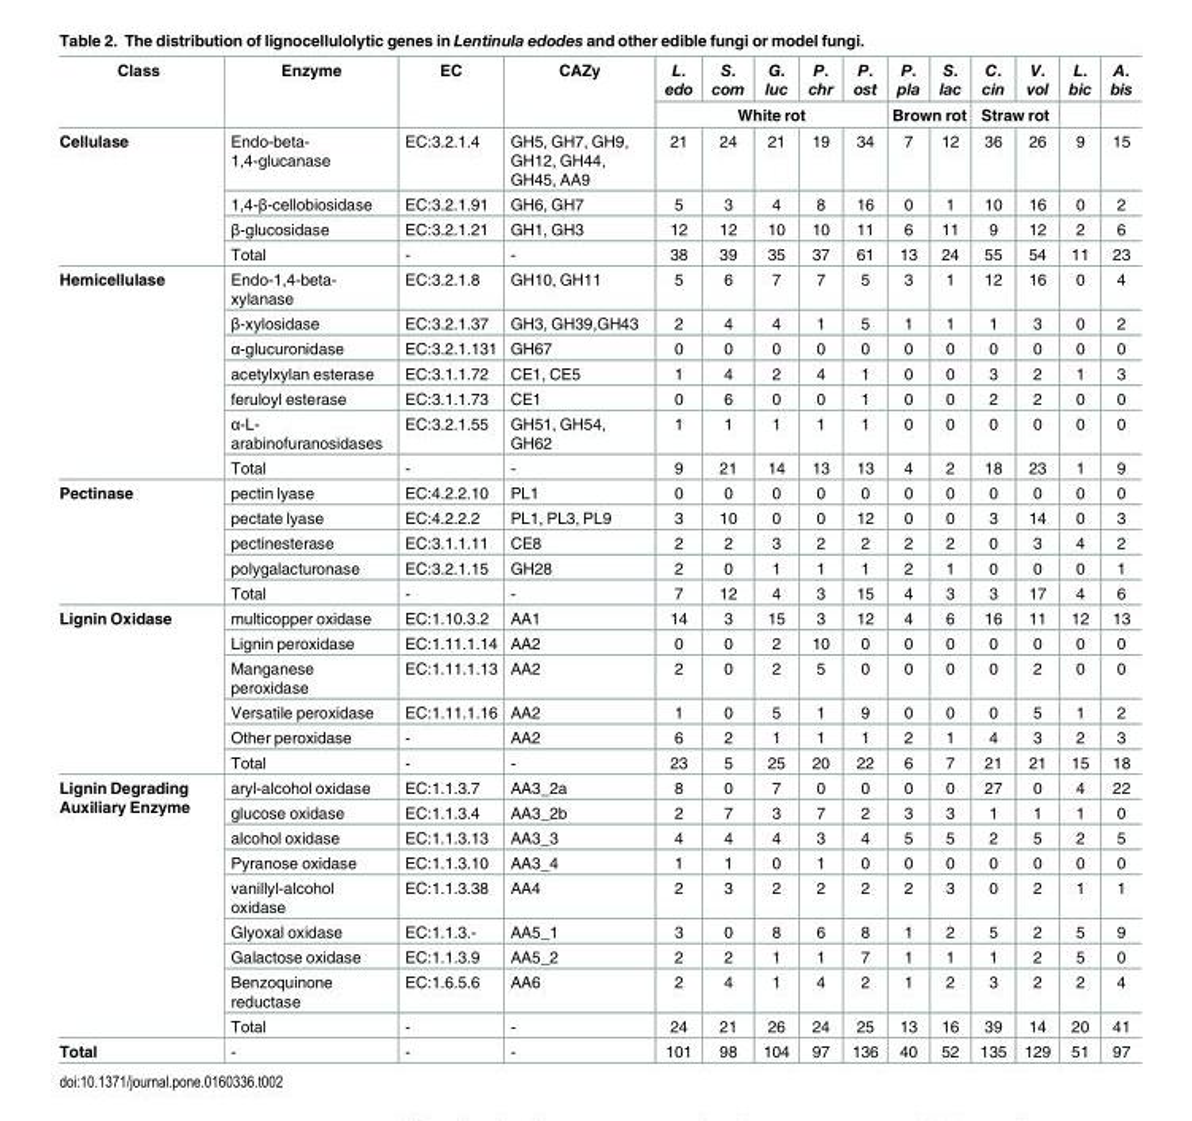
<table><thead><tr><td rowspan="2">Class</td><td rowspan="2">Enzyme</td><td rowspan="2">EC</td><td rowspan="2">CAZy</td><td>L. edo</td><td>S. com</td><td>G. luc</td><td>P. chr</td><td>P. ost</td><td>P. pla</td><td>S. lac</td><td>C. cin</td><td>V. vol</td><td rowspan="2">L. bic</td><td rowspan="2">A. bis</td></tr><tr><td colspan="5">White rot</td><td colspan="2">Brown rot</td><td colspan="2">Straw rot</td></tr></thead><tbody><tr><td rowspan="4">Cellulase</td><td>Endo-beta- 1,4-glucanase</td><td>EC:3.2.1.4</td><td>GH5, GH7, GH9, GH12, GH44, GH45, AA9</td><td>21</td><td>24</td><td>21</td><td>19</td><td>34</td><td>7</td><td>12</td><td>36</td><td>26</td><td>9</td><td>15</td></tr><tr><td>1,4-β-cellobiosidase</td><td>EC:3.2.1.91</td><td>GH6, GH7</td><td>5</td><td>3</td><td>4</td><td>8</td><td>16</td><td>0</td><td>1</td><td>10</td><td>16</td><td>0</td><td>2</td></tr><tr><td>β-glucosidase</td><td>EC:3.2.1.21</td><td>GH1, GH3</td><td>12</td><td>12</td><td>10</td><td>10</td><td>11</td><td>6</td><td>11</td><td>9</td><td>12</td><td>2</td><td>6</td></tr><tr><td>Total</td><td>-</td><td>-</td><td>38</td><td>39</td><td>35</td><td>37</td><td>61</td><td>13</td><td>24</td><td>55</td><td>54</td><td>11</td><td>23</td></tr><tr><td rowspan="7">Hemicellulase</td><td>Endo-1,4-beta- xylanase</td><td>EC:3.2.1.8</td><td>GH10, GH11</td><td>5</td><td>6</td><td>7</td><td>7</td><td>5</td><td>3</td><td>1</td><td>12</td><td>16</td><td>0</td><td>4</td></tr><tr><td>β-xylosidase</td><td>EC:3.2.1.37</td><td>GH3, GH39,GH43</td><td>2</td><td>4</td><td>4</td><td>1</td><td>5</td><td>1</td><td>1</td><td>1</td><td>3</td><td>0</td><td>2</td></tr><tr><td>α-glucuronidase</td><td>EC:3.2.1.131</td><td>GH67</td><td>0</td><td>0</td><td>0</td><td>0</td><td>0</td><td>0</td><td>0</td><td>0</td><td>0</td><td>0</td><td>0</td></tr><tr><td>acetylxylan esterase</td><td>EC:3.1.1.72</td><td>CE1, CE5</td><td>1</td><td>4</td><td>2</td><td>4</td><td>1</td><td>0</td><td>0</td><td>3</td><td>2</td><td>1</td><td>3</td></tr><tr><td>feruloyl esterase</td><td>EC:3.1.1.73</td><td>CE1</td><td>0</td><td>6</td><td>0</td><td>0</td><td>1</td><td>0</td><td>0</td><td>2</td><td>2</td><td>0</td><td>0</td></tr><tr><td>α-L- arabinofuranosidases</td><td>EC:3.2.1.55</td><td>GH51, GH54, GH62</td><td>1</td><td>1</td><td>1</td><td>1</td><td>1</td><td>0</td><td>0</td><td>0</td><td>0</td><td>0</td><td>0</td></tr><tr><td>Total</td><td>-</td><td>-</td><td>9</td><td>21</td><td>14</td><td>13</td><td>13</td><td>4</td><td>2</td><td>18</td><td>23</td><td>1</td><td>9</td></tr><tr><td rowspan="5">Pectinase</td><td>pectin lyase</td><td>EC:4.2.2.10</td><td>PL1</td><td>0</td><td>0</td><td>0</td><td>0</td><td>0</td><td>0</td><td>0</td><td>0</td><td>0</td><td>0</td><td>0</td></tr><tr><td>pectate lyase</td><td>EC:4.2.2.2</td><td>PL1, PL3, PL9</td><td>3</td><td>10</td><td>0</td><td>0</td><td>12</td><td>0</td><td>0</td><td>3</td><td>14</td><td>0</td><td>3</td></tr><tr><td>pectinesterase</td><td>EC:3.1.1.11</td><td>CE8</td><td>2</td><td>2</td><td>3</td><td>2</td><td>2</td><td>2</td><td>2</td><td>0</td><td>3</td><td>4</td><td>2</td></tr><tr><td>polygalacturonase</td><td>EC:3.2.1.15</td><td>GH28</td><td>2</td><td>0</td><td>1</td><td>1</td><td>1</td><td>2</td><td>1</td><td>0</td><td>0</td><td>0</td><td>1</td></tr><tr><td>Total</td><td>-</td><td>-</td><td>7</td><td>12</td><td>4</td><td>3</td><td>15</td><td>4</td><td>3</td><td>3</td><td>17</td><td>4</td><td>6</td></tr><tr><td rowspan="6">Lignin Oxidase</td><td>multicopper oxidase</td><td>EC:1.10.3.2</td><td>AA1</td><td>14</td><td>3</td><td>15</td><td>3</td><td>12</td><td>4</td><td>6</td><td>16</td><td>11</td><td>12</td><td>13</td></tr><tr><td>Lignin peroxidase</td><td>EC:1.11.1.14</td><td>AA2</td><td>0</td><td>0</td><td>2</td><td>10</td><td>0</td><td>0</td><td>0</td><td>0</td><td>0</td><td>0</td><td>0</td></tr><tr><td>Manganese peroxidase</td><td>EC:1.11.1.13</td><td>AA2</td><td>2</td><td>0</td><td>2</td><td>5</td><td>0</td><td>0</td><td>0</td><td>0</td><td>2</td><td>0</td><td>0</td></tr><tr><td>Versatile peroxidase</td><td>EC:1.11.1.16</td><td>AA2</td><td>1</td><td>0</td><td>5</td><td>1</td><td>9</td><td>0</td><td>0</td><td>0</td><td>5</td><td>1</td><td>2</td></tr><tr><td>Other peroxidase</td><td>-</td><td>AA2</td><td>6</td><td>2</td><td>1</td><td>1</td><td>1</td><td>2</td><td>1</td><td>4</td><td>3</td><td>2</td><td>3</td></tr><tr><td>Total</td><td>-</td><td>-</td><td>23</td><td>5</td><td>25</td><td>20</td><td>22</td><td>6</td><td>7</td><td>21</td><td>21</td><td>15</td><td>18</td></tr><tr><td rowspan="9">Lignin Degrading Auxiliary Enzyme</td><td>aryl-alcohol oxidase</td><td>EC:1.1.3.7</td><td>AA3_2a</td><td>8</td><td>0</td><td>7</td><td>0</td><td>0</td><td>0</td><td>0</td><td>27</td><td>0</td><td>4</td><td>22</td></tr><tr><td>glucose oxidase</td><td>EC:1.1.3.4</td><td>AA3_2b</td><td>2</td><td>7</td><td>3</td><td>7</td><td>2</td><td>3</td><td>3</td><td>1</td><td>1</td><td>1</td><td>0</td></tr><tr><td>alcohol oxidase</td><td>EC:1.1.3.13</td><td>AA3_3</td><td>4</td><td>4</td><td>4</td><td>3</td><td>4</td><td>5</td><td>5</td><td>2</td><td>5</td><td>2</td><td>5</td></tr><tr><td>Pyranose oxidase</td><td>EC:1.1.3.10</td><td>AA3_4</td><td>1</td><td>1</td><td>0</td><td>1</td><td>0</td><td>0</td><td>0</td><td>0</td><td>0</td><td>0</td><td>0</td></tr><tr><td>vanillyl-alcohol oxidase</td><td>EC:1.1.3.38</td><td>AA4</td><td>2</td><td>3</td><td>2</td><td>2</td><td>2</td><td>2</td><td>3</td><td>0</td><td>2</td><td>1</td><td>1</td></tr><tr><td>Glyoxal oxidase</td><td>EC:1.1.3.-</td><td>AA5_1</td><td>3</td><td>0</td><td>8</td><td>6</td><td>8</td><td>1</td><td>2</td><td>5</td><td>2</td><td>5</td><td>9</td></tr><tr><td>Galactose oxidase</td><td>EC:1.1.3.9</td><td>AA5_2</td><td>2</td><td>2</td><td>1</td><td>1</td><td>7</td><td>1</td><td>1</td><td>1</td><td>2</td><td>5</td><td>0</td></tr><tr><td>Benzoquinone reductase</td><td>EC:1.6.5.6</td><td>AA6</td><td>2</td><td>4</td><td>1</td><td>4</td><td>2</td><td>1</td><td>2</td><td>3</td><td>2</td><td>2</td><td>4</td></tr><tr><td>Total</td><td>-</td><td>-</td><td>24</td><td>21</td><td>26</td><td>24</td><td>25</td><td>13</td><td>16</td><td>39</td><td>14</td><td>20</td><td>41</td></tr><tr><td>Total</td><td>-</td><td>-</td><td>-</td><td>101</td><td>98</td><td>104</td><td>97</td><td>136</td><td>40</td><td>52</td><td>135</td><td>129</td><td>51</td><td>97</td></tr></tbody></table>